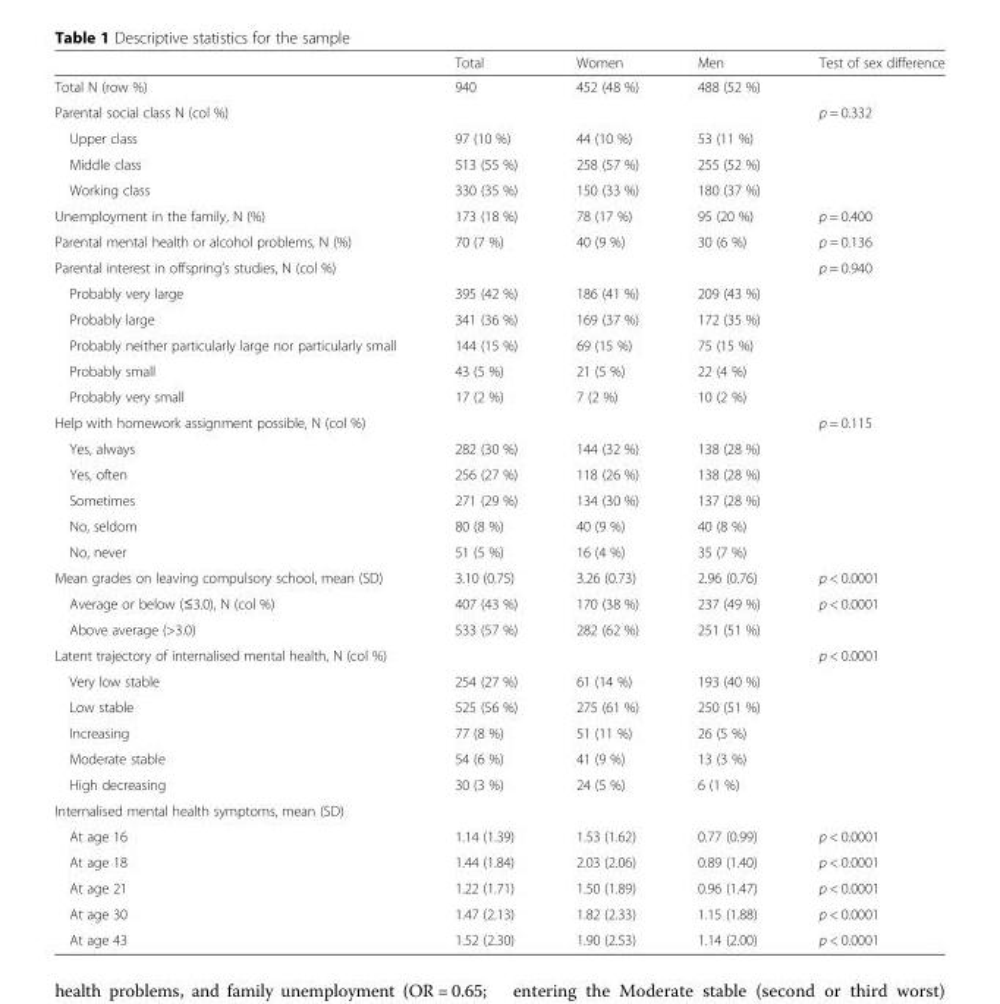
<table><thead><tr><td></td><td>Total</td><td>Women</td><td>Men</td><td>Test of sex difference</td></tr></thead><tbody><tr><td>Total N (row %)</td><td>940</td><td>452 (48 %)</td><td>488 (52 %)</td><td></td></tr><tr><td>Parental social class N (col %)</td><td></td><td></td><td></td><td>p = 0.332</td></tr><tr><td>Upper class</td><td>97 (10 %)</td><td>44 (10 %)</td><td>53 (11 %)</td><td></td></tr><tr><td>Middle class</td><td>513 (55 %)</td><td>258 (57 %)</td><td>255 (52 %)</td><td></td></tr><tr><td>Working class</td><td>330 (35 %)</td><td>150 (33 %)</td><td>180 (37 %)</td><td></td></tr><tr><td>Unemployment in the family, N (%)</td><td>173 (18 %)</td><td>78 (17 %)</td><td>95 (20 %)</td><td>p = 0.400</td></tr><tr><td>Parental mental health or alcohol problems, N (%)</td><td>70 (7 %)</td><td>40 (9 %)</td><td>30 (6 %)</td><td>p = 0.136</td></tr><tr><td>Parental interest in offspring’s studies, N (col %)</td><td></td><td></td><td></td><td>p = 0.940</td></tr><tr><td>Probably very large</td><td>395 (42 %)</td><td>186 (41 %)</td><td>209 (43 %)</td><td></td></tr><tr><td>Probably large</td><td>341 (36 %)</td><td>169 (37 %)</td><td>172 (35 %)</td><td></td></tr><tr><td>Probably neither particularly large nor particularly small</td><td>144 (15 %)</td><td>69 (15 %)</td><td>75 (15 %)</td><td></td></tr><tr><td>Probably small</td><td>43 (5 %)</td><td>21 (5 %)</td><td>22 (4 %)</td><td></td></tr><tr><td>Probably very small</td><td>17 (2 %)</td><td>7 (2 %)</td><td>10 (2 %)</td><td></td></tr><tr><td>Help with homework assignment possible, N (col %)</td><td></td><td></td><td></td><td>p = 0.115</td></tr><tr><td>Yes, always</td><td>282 (30 %)</td><td>144 (32 %)</td><td>138 (28 %)</td><td></td></tr><tr><td>Yes, often</td><td>256 (27 %)</td><td>118 (26 %)</td><td>138 (28 %)</td><td></td></tr><tr><td>Sometimes</td><td>271 (29 %)</td><td>134 (30 %)</td><td>137 (28 %)</td><td></td></tr><tr><td>No, seldom</td><td>80 (8 %)</td><td>40 (9 %)</td><td>40 (8 %)</td><td></td></tr><tr><td>No, never</td><td>51 (5 %)</td><td>16 (4 %)</td><td>35 (7 %)</td><td></td></tr><tr><td>Mean grades on leaving compulsory school, mean (SD)</td><td>3.10 (0.75)</td><td>3.26 (0.73)</td><td>2.96 (0.76)</td><td>p &lt; 0.0001</td></tr><tr><td>Average or below (≤3.0), N (col %)</td><td>407 (43 %)</td><td>170 (38 %)</td><td>237 (49 %)</td><td>p &lt; 0.0001</td></tr><tr><td>Above average (&gt;3.0)</td><td>533 (57 %)</td><td>282 (62 %)</td><td>251 (51 %)</td><td></td></tr><tr><td>Latent trajectory of internalised mental health, N (col %)</td><td></td><td></td><td></td><td>p &lt; 0.0001</td></tr><tr><td>Very low stable</td><td>254 (27 %)</td><td>61 (14 %)</td><td>193 (40 %)</td><td></td></tr><tr><td>Low stable</td><td>525 (56 %)</td><td>275 (61 %)</td><td>250 (51 %)</td><td></td></tr><tr><td>Increasing</td><td>77 (8 %)</td><td>51 (11 %)</td><td>26 (5 %)</td><td></td></tr><tr><td>Moderate stable</td><td>54 (6 %)</td><td>41 (9 %)</td><td>13 (3 %)</td><td></td></tr><tr><td>High decreasing</td><td>30 (3 %)</td><td>24 (5 %)</td><td>6 (1 %)</td><td></td></tr><tr><td colspan="5">Internalised mental health symptoms, mean (SD)</td></tr><tr><td>At age 16</td><td>1.14 (1.39)</td><td>1.53 (1.62)</td><td>0.77 (0.99)</td><td>p &lt; 0.0001</td></tr><tr><td>At age 18</td><td>1.44 (1.84)</td><td>2.03 (2.06)</td><td>0.89 (1.40)</td><td>p &lt; 0.0001</td></tr><tr><td>At age 21</td><td>1.22 (1.71)</td><td>1.50 (1.89)</td><td>0.96 (1.47)</td><td>p &lt; 0.0001</td></tr><tr><td>At age 30</td><td>1.47 (2.13)</td><td>1.82 (2.33)</td><td>1.15 (1.88)</td><td>p &lt; 0.0001</td></tr><tr><td>At age 43</td><td>1.52 (2.30)</td><td>1.90 (2.53)</td><td>1.14 (2.00)</td><td>p &lt; 0.0001</td></tr></tbody></table>